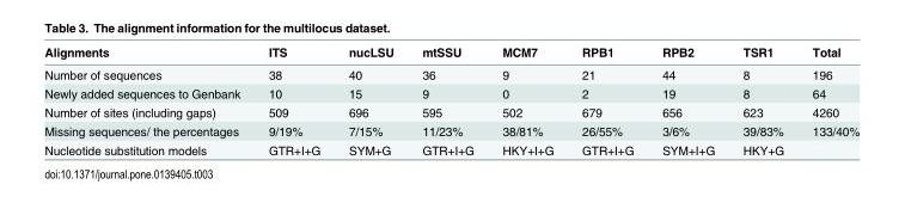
<table><thead><tr><td>Alignments</td><td>ITS</td><td>nucLSU</td><td>mtSSU</td><td>MCM7</td><td>RPB1</td><td>RPB2</td><td>TSR1</td><td>Total</td></tr></thead><tbody><tr><td>Number of sequences</td><td>38</td><td>40</td><td>36</td><td>9</td><td>21</td><td>44</td><td>8</td><td>196</td></tr><tr><td>Newly added sequences to Genbank</td><td>10</td><td>15</td><td>9</td><td>0</td><td>2</td><td>19</td><td>8</td><td>64</td></tr><tr><td>Number of sites (including gaps)</td><td>509</td><td>696</td><td>595</td><td>502</td><td>679</td><td>656</td><td>623</td><td>4260</td></tr><tr><td>Missing sequences/ the percentages</td><td>9/19%</td><td>7/15%</td><td>11/23%</td><td>38/81%</td><td>26/55%</td><td>3/6%</td><td>39/83%</td><td>133/40%</td></tr><tr><td>Nucleotide substitution models</td><td>GTR+I+G</td><td>SYM+G</td><td>GTR+I+G</td><td>HKY+I+G</td><td>GTR+I+G</td><td>SYM+I+G</td><td>HKY+G</td><td></td></tr></tbody></table>